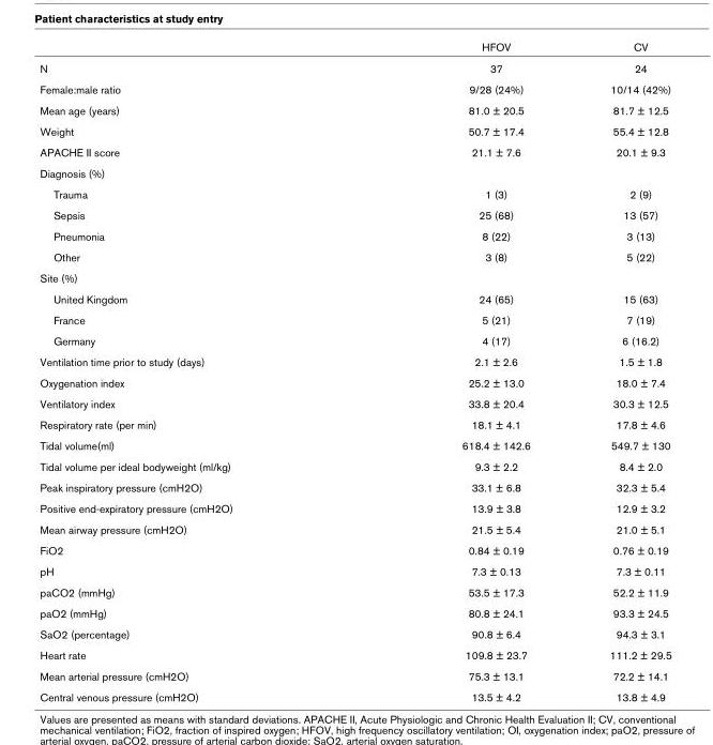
<table><thead><tr><td></td><td>HFOV</td><td>CV</td></tr></thead><tbody><tr><td>N</td><td>37</td><td>24</td></tr><tr><td>Female:male ratio</td><td>9/28 (24%)</td><td>10/14 (42%)</td></tr><tr><td>Mean age (years)</td><td>81.0 ± 20.5</td><td>81.7 ± 12.5</td></tr><tr><td>Weight</td><td>50.7 ± 17.4</td><td>55.4 ± 12.8</td></tr><tr><td>APACHE II score</td><td>21.1 ± 7.6</td><td>20.1 ± 9.3</td></tr><tr><td colspan="3">Diagnosis (%)</td></tr><tr><td>Trauma</td><td>1 (3)</td><td>2 (9)</td></tr><tr><td>Sepsis</td><td>25 (68)</td><td>13 (57)</td></tr><tr><td>Pneumonia</td><td>8 (22)</td><td>3 (13)</td></tr><tr><td>Other</td><td>3 (8)</td><td>5 (22)</td></tr><tr><td colspan="3">Site (%)</td></tr><tr><td>United Kingdom</td><td>24 (65)</td><td>15 (63)</td></tr><tr><td>France</td><td>5 (21)</td><td>7 (19)</td></tr><tr><td>Germany</td><td>4 (17)</td><td>6 (16.2)</td></tr><tr><td>Ventilation time prior to study (days)</td><td>2.1 ± 2.6</td><td>1.5 ± 1.8</td></tr><tr><td>Oxygenation index</td><td>25.2 ± 13.0</td><td>18.0 ± 7.4</td></tr><tr><td>Ventilatory index</td><td>33.8 ± 20.4</td><td>30.3 ± 12.5</td></tr><tr><td>Respiratory rate (per min)</td><td>18.1 ± 4.1</td><td>17.8 ± 4.6</td></tr><tr><td>Tidal volume(ml)</td><td>618.4 ± 142.6</td><td>549.7 ± 130</td></tr><tr><td>Tidal volume per ideal bodyweight (ml/kg)</td><td>9.3 ± 2.2</td><td>8.4 ± 2.0</td></tr><tr><td>Peak inspiratory pressure (cmH2O)</td><td>33.1 ± 6.8</td><td>32.3 ± 5.4</td></tr><tr><td>Positive end-expiratory pressure (cmH2O)</td><td>13.9 ± 3.8</td><td>12.9 ± 3.2</td></tr><tr><td>Mean airway pressure (cmH2O)</td><td>21.5 ± 5.4</td><td>21.0 ± 5.1</td></tr><tr><td>FiO2</td><td>0.84 ± 0.19</td><td>0.76 ± 0.19</td></tr><tr><td>pH</td><td>7.3 ± 0.13</td><td>7.3 ± 0.11</td></tr><tr><td>paCO2 (mmHg)</td><td>53.5 ± 17.3</td><td>52.2 ± 11.9</td></tr><tr><td>paO2 (mmHg)</td><td>80.8 ± 24.1</td><td>93.3 ± 24.5</td></tr><tr><td>SaO2 (percentage)</td><td>90.8 ± 6.4</td><td>94.3 ± 3.1</td></tr><tr><td>Heart rate</td><td>109.8 ± 23.7</td><td>111.2 ± 29.5</td></tr><tr><td>Mean arterial pressure (cmH2O)</td><td>75.3 ± 13.1</td><td>72.2 ± 14.1</td></tr><tr><td>Central venous pressure (cmH2O)</td><td>13.5 ± 4.2</td><td>13.8 ± 4.9</td></tr></tbody></table>